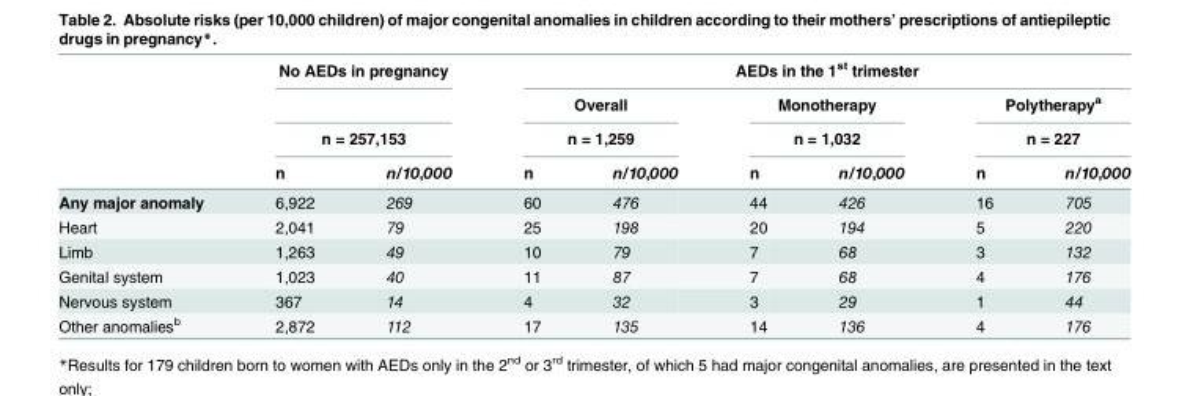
<table><thead><tr><td rowspan="4"></td><td colspan="2">No AEDs in pregnancy</td><td colspan="6">AEDs in the 1<sup>st</sup> trimester</td></tr><tr><td></td><td></td><td rowspan="2" colspan="2">Overall n = 1,259</td><td rowspan="2" colspan="2">Monotherapy n = 1,032</td><td rowspan="2" colspan="2">Polytherapy<sup>a</sup> n = 227</td></tr><tr><td colspan="2">n = 257,153</td></tr><tr><td>n</td><td>n/10,000</td><td>n</td><td>n/10,000</td><td>n</td><td>n/10,000</td><td>n</td><td>n/10,000</td></tr></thead><tbody><tr><td>Any major anomaly</td><td>6,922</td><td>269</td><td>60</td><td>476</td><td>44</td><td>426</td><td>16</td><td>705</td></tr><tr><td>Heart</td><td>2,041</td><td>79</td><td>25</td><td>198</td><td>20</td><td>194</td><td>5</td><td>220</td></tr><tr><td>Limb</td><td>1,263</td><td>49</td><td>10</td><td>79</td><td>7</td><td>68</td><td>3</td><td>132</td></tr><tr><td>Genital system</td><td>1,023</td><td>40</td><td>11</td><td>87</td><td>7</td><td>68</td><td>4</td><td>176</td></tr><tr><td>Nervous system</td><td>367</td><td>14</td><td>4</td><td>32</td><td>3</td><td>29</td><td>1</td><td>44</td></tr><tr><td>Other anomalies<sup>b</sup></td><td>2,872</td><td>112</td><td>17</td><td>135</td><td>14</td><td>136</td><td>4</td><td>176</td></tr></tbody></table>